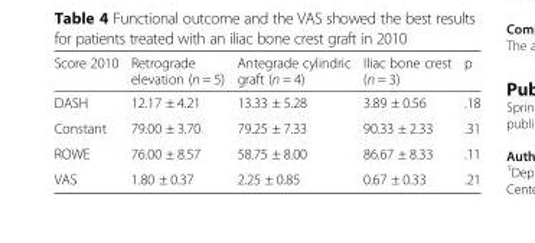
<table><thead><tr><td>Score 2010</td><td>Retrograde elevation (n = 5)</td><td>Antegrade cylindric graft (n = 4)</td><td>Iliac bone crest (n = 3)</td><td>p</td></tr></thead><tbody><tr><td>DASH</td><td>12.17 ± 4.21</td><td>13.33 ± 5.28</td><td>3.89 ± 0.56</td><td>.18</td></tr><tr><td>Constant</td><td>79.00 ± 3.70</td><td>79.25 ± 7.33</td><td>90.33 ± 2.33</td><td>.31</td></tr><tr><td>ROWE</td><td>76.00 ± 8.57</td><td>58.75 ± 8.00</td><td>86.67 ± 8.33</td><td>.11</td></tr><tr><td>VAS</td><td>1.80 ± 0.37</td><td>2.25 ± 0.85</td><td>0.67 ± 0.33</td><td>.21</td></tr></tbody></table>